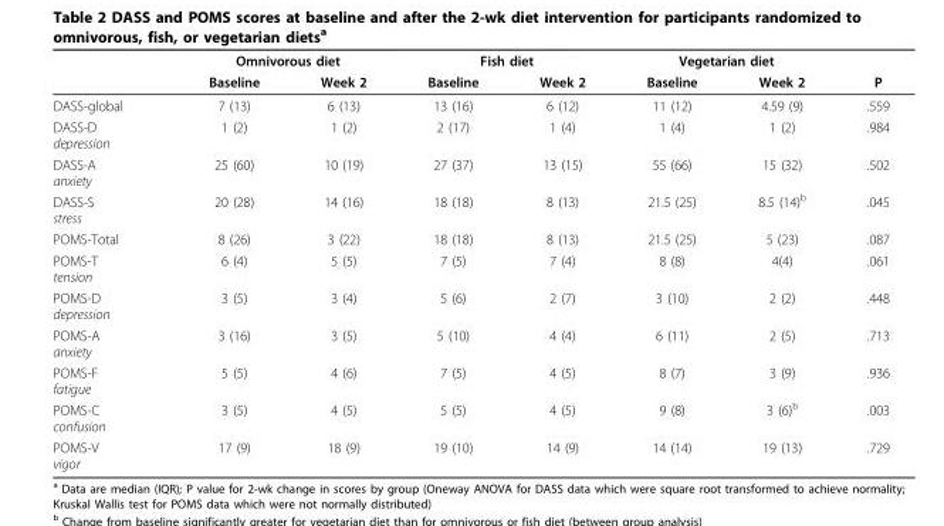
<table><thead><tr><td rowspan="2"></td><td colspan="2">Omnivorous diet</td><td colspan="2">Fish diet</td><td colspan="2">Vegetarian diet</td><td rowspan="2">P</td></tr><tr><td>Baseline</td><td>Week 2</td><td>Baseline</td><td>Week 2</td><td>Baseline</td><td>Week 2</td></tr></thead><tbody><tr><td>DASS-global</td><td>7 (13)</td><td>6 (13)</td><td>13 (16)</td><td>6 (12)</td><td>11 (12)</td><td>4.59 (9)</td><td>.559</td></tr><tr><td>DASS-D depression</td><td>1 (2)</td><td>1 (2)</td><td>2 (17)</td><td>1 (4)</td><td>1 (4)</td><td>1 (2)</td><td>.984</td></tr><tr><td>DASS-A anxiety</td><td>25 (60)</td><td>10 (19)</td><td>27 (37)</td><td>13 (15)</td><td>55 (66)</td><td>15 (32)</td><td>.502</td></tr><tr><td>DASS-S stress</td><td>20 (28)</td><td>14 (16)</td><td>18 (18)</td><td>8 (13)</td><td>21.5 (25)</td><td>8.5 (14)<sup>b</sup></td><td>.045</td></tr><tr><td>POMS-Total</td><td>8 (26)</td><td>3 (22)</td><td>18 (18)</td><td>8 (13)</td><td>21.5 (25)</td><td>5 (23)</td><td>.087</td></tr><tr><td>POMS-T tension</td><td>6 (4)</td><td>5 (5)</td><td>7 (5)</td><td>7 (4)</td><td>8 (8)</td><td>4(4)</td><td>.061</td></tr><tr><td>POMS-D depression</td><td>3 (5)</td><td>3 (4)</td><td>5 (6)</td><td>2 (7)</td><td>3 (10)</td><td>2 (2)</td><td>.448</td></tr><tr><td>POMS-A anxiety</td><td>3 (16)</td><td>3 (5)</td><td>5 (10)</td><td>4 (4)</td><td>6 (11)</td><td>2 (5)</td><td>.713</td></tr><tr><td>POMS-F fatigue</td><td>5 (5)</td><td>4 (6)</td><td>7 (5)</td><td>4 (5)</td><td>8 (7)</td><td>3 (9)</td><td>.936</td></tr><tr><td>POMS-C confusion</td><td>3 (5)</td><td>4 (5)</td><td>5 (5)</td><td>4 (5)</td><td>9 (8)</td><td>3 (6)<sup>b</sup></td><td>.003</td></tr><tr><td>POMS-V vigor</td><td>17 (9)</td><td>18 (9)</td><td>19 (10)</td><td>14 (9)</td><td>14 (14)</td><td>19 (13)</td><td>.729</td></tr></tbody></table>